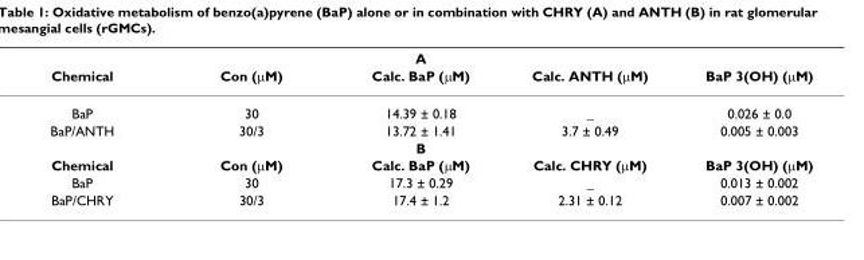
<table><thead><tr><td colspan="5">A</td></tr><tr><td>Chemical</td><td>Con (µM)</td><td>Calc. BaP (µM)</td><td>Calc. ANTH (µM)</td><td>BaP 3(OH) (µM)</td></tr></thead><tbody><tr><td>BaP</td><td>30</td><td>14.39 ± 0.18</td><td>_</td><td>0.026 ± 0.0</td></tr><tr><td>BaP/ANTH</td><td>30/3</td><td>13.72 ± 1.41</td><td>3.7 ± 0.49</td><td>0.005 ± 0.003</td></tr><tr><td colspan="5">B</td></tr><tr><td>Chemical</td><td>Con (µM)</td><td>Calc. BaP (µM)</td><td>Calc. CHRY (µM)</td><td>BaP 3(OH) (µM)</td></tr><tr><td>BaP</td><td>30</td><td>17.3 ± 0.29</td><td>_</td><td>0.013 ± 0.002</td></tr><tr><td>BaP/CHRY</td><td>30/3</td><td>17.4 ± 1.2</td><td>2.31 ± 0.12</td><td>0.007 ± 0.002</td></tr></tbody></table>